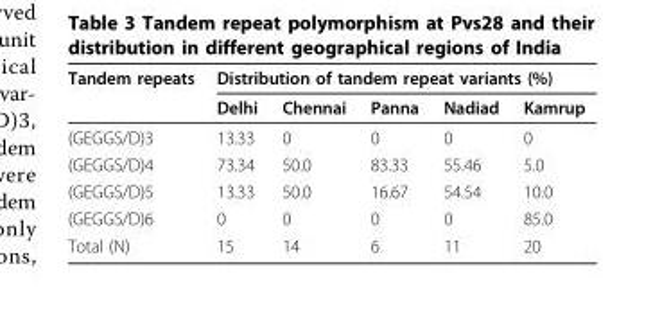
<table><thead><tr><td rowspan="2">Tandem repeats</td><td colspan="5">Distribution of tandem repeat variants (%)</td></tr><tr><td>Delhi</td><td>Chennai</td><td>Panna</td><td>Nadiad</td><td>Kamrup</td></tr></thead><tbody><tr><td>(GEGGS/D)3</td><td>13.33</td><td>0</td><td>0</td><td>0</td><td>0</td></tr><tr><td>(GEGGS/D)4</td><td>73.34</td><td>50.0</td><td>83.33</td><td>55.46</td><td>5.0</td></tr><tr><td>(GEGGS/D)5</td><td>13.33</td><td>50.0</td><td>16.67</td><td>54.54</td><td>10.0</td></tr><tr><td>(GEGGS/D)6</td><td>0</td><td>0</td><td>0</td><td>0</td><td>85.0</td></tr><tr><td>Total (N)</td><td>15</td><td>14</td><td>6</td><td>11</td><td>20</td></tr></tbody></table>